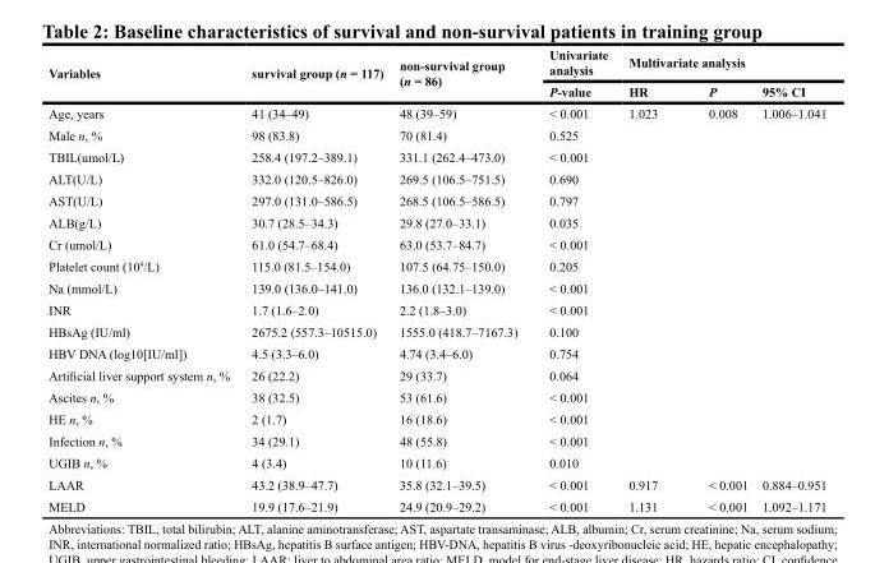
<table><thead><tr><td rowspan="2">Variables</td><td rowspan="2">survival group (n = 117)</td><td rowspan="2">non-survival group (n = 86)</td><td rowspan="2">Univariate analysis P-value</td><td colspan="3">Multivariate analysis</td></tr><tr><td>HR</td><td>P</td><td>95% CI</td></tr></thead><tbody><tr><td>Age, years</td><td>41 (34–49)</td><td>48 (39–59)</td><td>&lt; 0.001</td><td>1.023</td><td>0.008</td><td>1.006–1.041</td></tr><tr><td>Male n, %</td><td>98 (83.8)</td><td>70 (81.4)</td><td>0.525</td><td></td><td></td><td></td></tr><tr><td>TBIL(umol/L)</td><td>258.4 (197.2–389.1)</td><td>331.1 (262.4–473.0)</td><td>&lt; 0.001</td><td></td><td></td><td></td></tr><tr><td>ALT(U/L)</td><td>332.0 (120.5–826.0)</td><td>269.5 (106.5–751.5)</td><td>0.690</td><td></td><td></td><td></td></tr><tr><td>AST(U/L)</td><td>297.0 (131.0–586.5)</td><td>268.5 (106.5–586.5)</td><td>0.797</td><td></td><td></td><td></td></tr><tr><td>ALB(g/L)</td><td>30.7 (28.5–34.3)</td><td>29.8 (27.0–33.1)</td><td>0.035</td><td></td><td></td><td></td></tr><tr><td>Cr (umol/L)</td><td>61.0 (54.7–68.4)</td><td>63.0 (53.7–84.7)</td><td>&lt; 0.001</td><td></td><td></td><td></td></tr><tr><td>Platelet count (10<sup>9</sup>/L)</td><td>115.0 (81.5–154.0)</td><td>107.5 (64.75–150.0)</td><td>0.205</td><td></td><td></td><td></td></tr><tr><td>Na (mmol/L)</td><td>139.0 (136.0–141.0)</td><td>136.0 (132.1–139.0)</td><td>&lt; 0.001</td><td></td><td></td><td></td></tr><tr><td>INR</td><td>1.7 (1.6–2.0)</td><td>2.2 (1.8–3.0)</td><td>&lt; 0.001</td><td></td><td></td><td></td></tr><tr><td>HBsAg (IU/ml)</td><td>2675.2 (557.3–10515.0)</td><td>1555.0 (418.7–7167.3)</td><td>0.100</td><td></td><td></td><td></td></tr><tr><td>HBV DNA (log10[IU/ml])</td><td>4.5 (3.3–6.0)</td><td>4.74 (3.4–6.0)</td><td>0.754</td><td></td><td></td><td></td></tr><tr><td>Artificial liver support system n, %</td><td>26 (22.2)</td><td>29 (33.7)</td><td>0.064</td><td></td><td></td><td></td></tr><tr><td>Ascites n, %</td><td>38 (32.5)</td><td>53 (61.6)</td><td>&lt; 0.001</td><td></td><td></td><td></td></tr><tr><td>HE n, %</td><td>2 (1.7)</td><td>16 (18.6)</td><td>&lt; 0.001</td><td></td><td></td><td></td></tr><tr><td>Infection n, %</td><td>34 (29.1)</td><td>48 (55.8)</td><td>&lt; 0.001</td><td></td><td></td><td></td></tr><tr><td>UGIB n, %</td><td>4 (3.4)</td><td>10 (11.6)</td><td>0.010</td><td></td><td></td><td></td></tr><tr><td>LAAR</td><td>43.2 (38.9–47.7)</td><td>35.8 (32.1–39.5)</td><td>&lt; 0.001</td><td>0.917</td><td>&lt; 0.001</td><td>0.884–0.951</td></tr><tr><td>MELD</td><td>19.9 (17.6–21.9)</td><td>24.9 (20.9–29.2)</td><td>&lt; 0.001</td><td>1.131</td><td>&lt; 0.001</td><td>1.092–1.171</td></tr></tbody></table>